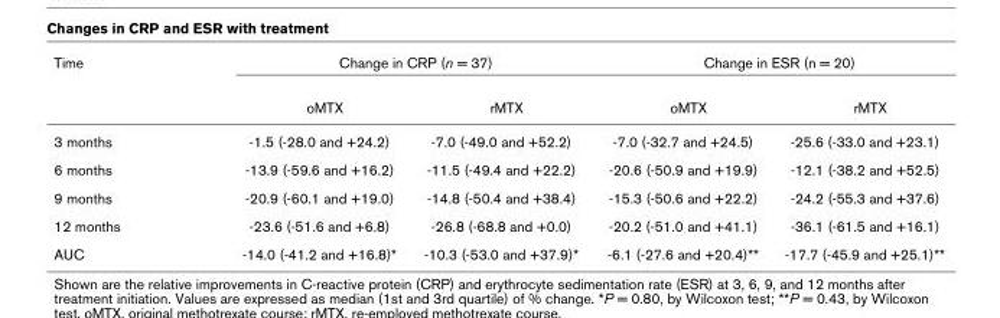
<table><thead><tr><td rowspan="2">Time</td><td colspan="2">Change in CRP (n = 37)</td><td colspan="2">Change in ESR (n = 20)</td></tr><tr><td>oMTX</td><td>rMTX</td><td>oMTX</td><td>rMTX</td></tr></thead><tbody><tr><td>3 months</td><td>-1.5 (-28.0 and +24.2)</td><td>-7.0 (-49.0 and +52.2)</td><td>-7.0 (-32.7 and +24.5)</td><td>-25.6 (-33.0 and +23.1)</td></tr><tr><td>6 months</td><td>-13.9 (-59.6 and +16.2)</td><td>-11.5 (-49.4 and +22.2)</td><td>-20.6 (-50.9 and +19.9)</td><td>-12.1 (-38.2 and +52.5)</td></tr><tr><td>9 months</td><td>-20.9 (-60.1 and +19.0)</td><td>-14.8 (-50.4 and +38.4)</td><td>-15.3 (-50.6 and +22.2)</td><td>-24.2 (-55.3 and +37.6)</td></tr><tr><td>12 months</td><td>-23.6 (-51.6 and +6.8)</td><td>-26.8 (-68.8 and +0.0)</td><td>-20.2 (-51.0 and +41.1)</td><td>-36.1 (-61.5 and +16.1)</td></tr><tr><td>AUC</td><td>-14.0 (-41.2 and +16.8)*</td><td>-10.3 (-53.0 and +37.9)*</td><td>-6.1 (-27.6 and +20.4)**</td><td>-17.7 (-45.9 and +25.1)**</td></tr></tbody></table>